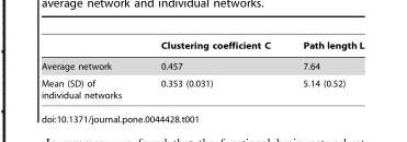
<table><thead><tr><td></td><td>Clustering coefficient C</td><td>Path length L</td></tr></thead><tbody><tr><td>Average network</td><td>0.457</td><td>7.64</td></tr><tr><td>Mean (SD) of individual networks</td><td>0.353 (0.031)</td><td>5.14 (0.52)</td></tr></tbody></table>